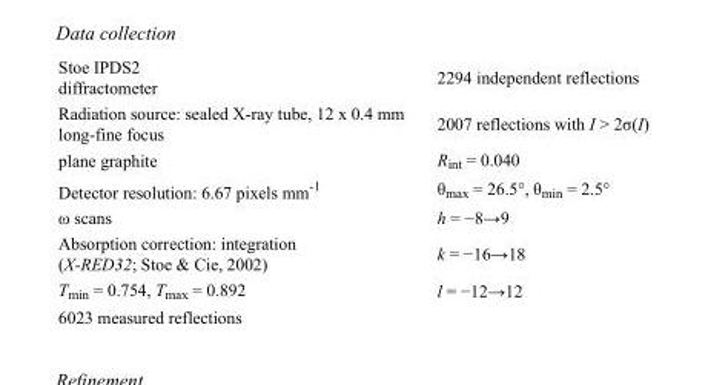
<table><tbody><tr><td>Stoe IPDS2 diffractometer</td><td>2294 independent reflections</td></tr><tr><td>Radiation source: sealed X-ray tube, 12 x 0.4 mm long-fine focus</td><td>2007 reflections with I &gt; 2σ(I)</td></tr><tr><td>plane graphite</td><td>R<sub>int</sub> = 0.040</td></tr><tr><td>Detector resolution: 6.67 pixels mm<sup>-1</sup></td><td>θ<sub>max</sub> = 26.5°, θ<sub>min</sub> = 2.5°</td></tr><tr><td>ω scans</td><td>h = −8→9</td></tr><tr><td>Absorption correction: integration (X-RED32; Stoe &amp; Cie, 2002)</td><td>k = −16→18</td></tr><tr><td>T<sub>min</sub> = 0.754, T<sub>max</sub> = 0.892</td><td>l = −12→12</td></tr><tr><td>6023 measured reflections</td><td></td></tr></tbody></table>